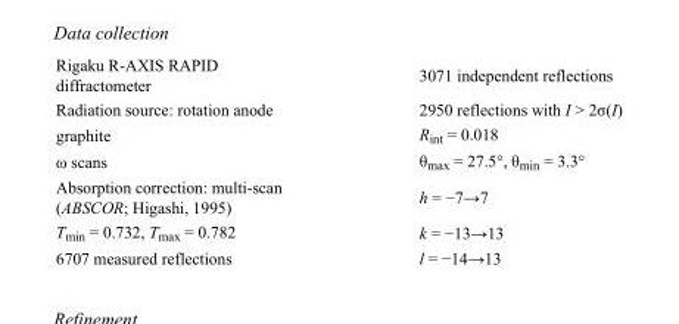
<table><tbody><tr><td>Rigaku R-AXIS RAPID diffractometer</td><td>3071 independent reflections</td></tr><tr><td>Radiation source: rotation anode</td><td>2950 reflections with I &gt; 2σ(I)</td></tr><tr><td>graphite</td><td>R<sub>int</sub> = 0.018</td></tr><tr><td>ω scans</td><td>θ<sub>max</sub> = 27.5°, θ<sub>min</sub> = 3.3°</td></tr><tr><td>Absorption correction: multi-scan (ABSCOR; Higashi, 1995)</td><td>h = −7→7</td></tr><tr><td>T<sub>min</sub> = 0.732, T<sub>max</sub> = 0.782</td><td>k = −13→13</td></tr><tr><td>6707 measured reflections</td><td>l = −14→13</td></tr></tbody></table>